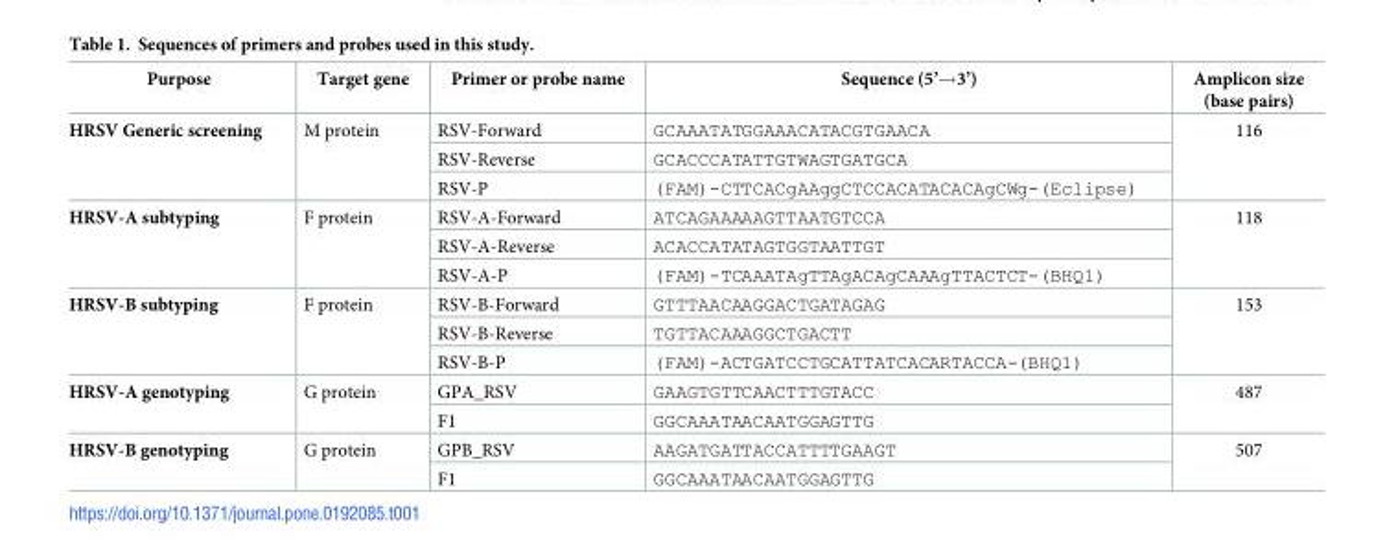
<table><thead><tr><td>Purpose</td><td>Target gene</td><td>Primer or probe name</td><td>Sequence (5’→3’)</td><td>Amplicon size (base pairs)</td></tr></thead><tbody><tr><td rowspan="3">HRSV Generic screening</td><td rowspan="3">M protein</td><td>RSV-Forward</td><td>GCAAATATGGAAACATACGTGAACA</td><td rowspan="3">116</td></tr><tr><td>RSV-Reverse</td><td>GCACCCATATTGTWAGTGATGCA</td></tr><tr><td>RSV-P</td><td>(FAM)-CTTCACgAAggCTCCACATACACAgCWg-(Eclipse)</td></tr><tr><td rowspan="3">HRSV-A subtyping</td><td rowspan="3">F protein</td><td>RSV-A-Forward</td><td>ATCAGAAAAAGTTAATGTCCA</td><td rowspan="3">118</td></tr><tr><td>RSV-A-Reverse</td><td>ACACCATATAGTGGTAATTGT</td></tr><tr><td>RSV-A-P</td><td>(FAM)-TCAAATAgTTAgACAgCAAAgTTACTCT-(BHQ1)</td></tr><tr><td rowspan="3">HRSV-B subtyping</td><td rowspan="3">F protein</td><td>RSV-B-Forward</td><td>GTTTAACAAGGACTGATAGAG</td><td rowspan="3">153</td></tr><tr><td>RSV-B-Reverse</td><td>TGTTACAAAGGCTGACTT</td></tr><tr><td>RSV-B-P</td><td>(FAM)-ACTGATCCTGCATTATCACARTACCA-(BHQ1)</td></tr><tr><td rowspan="2">HRSV-A genotyping</td><td rowspan="2">G protein</td><td>GPA_RSV</td><td>GAAGTGTTCAACTTTGTACC</td><td rowspan="2">487</td></tr><tr><td>F1</td><td>GGCAAATAACAATGGAGTTG</td></tr><tr><td rowspan="2">HRSV-B genotyping</td><td rowspan="2">G protein</td><td>GPB_RSV</td><td>AAGATGATTACCATTTTGAAGT</td><td rowspan="2">507</td></tr><tr><td>F1</td><td>GGCAAATAACAATGGAGTTG</td></tr></tbody></table>